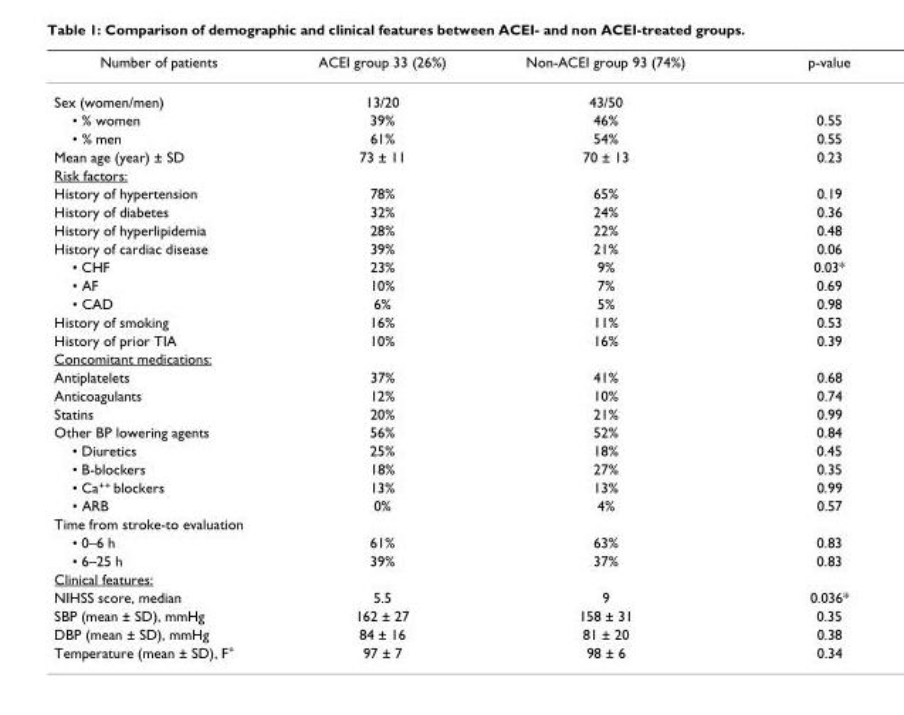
<table><thead><tr><td>Number of patients</td><td>ACEI group 33 (26%)</td><td>Non-ACEI group 93 (74%)</td><td>p-value</td></tr></thead><tbody><tr><td>Sex (women/men)</td><td>13/20</td><td>43/50</td><td></td></tr><tr><td>• % women</td><td>39%</td><td>46%</td><td>0.55</td></tr><tr><td>• % men</td><td>61%</td><td>54%</td><td>0.55</td></tr><tr><td>Mean age (year) ± SD</td><td>73 ± 11</td><td>70 ± 13</td><td>0.23</td></tr><tr><td colspan="4">Risk factors:</td></tr><tr><td>History of hypertension</td><td>78%</td><td>65%</td><td>0.19</td></tr><tr><td>History of diabetes</td><td>32%</td><td>24%</td><td>0.36</td></tr><tr><td>History of hyperlipidemia</td><td>28%</td><td>22%</td><td>0.48</td></tr><tr><td>History of cardiac disease</td><td>39%</td><td>21%</td><td>0.06</td></tr><tr><td>• CHF</td><td>23%</td><td>9%</td><td>0.03*</td></tr><tr><td>• AF</td><td>10%</td><td>7%</td><td>0.69</td></tr><tr><td>• CAD</td><td>6%</td><td>5%</td><td>0.98</td></tr><tr><td>History of smoking</td><td>16%</td><td>11%</td><td>0.53</td></tr><tr><td>History of prior TIA</td><td>10%</td><td>16%</td><td>0.39</td></tr><tr><td colspan="4">Concomitant medications:</td></tr><tr><td>Antiplatelets</td><td>37%</td><td>41%</td><td>0.68</td></tr><tr><td>Anticoagulants</td><td>12%</td><td>10%</td><td>0.74</td></tr><tr><td>Statins</td><td>20%</td><td>21%</td><td>0.99</td></tr><tr><td>Other BP lowering agents</td><td>56%</td><td>52%</td><td>0.84</td></tr><tr><td>• Diuretics</td><td>25%</td><td>18%</td><td>0.45</td></tr><tr><td>• B-blockers</td><td>18%</td><td>27%</td><td>0.35</td></tr><tr><td>• Ca<sup>++</sup> blockers</td><td>13%</td><td>13%</td><td>0.99</td></tr><tr><td>• ARB</td><td>0%</td><td>4%</td><td>0.57</td></tr><tr><td colspan="4">Time from stroke-to evaluation</td></tr><tr><td>• 0–6 h</td><td>61%</td><td>63%</td><td>0.83</td></tr><tr><td>• 6–25 h</td><td>39%</td><td>37%</td><td>0.83</td></tr><tr><td colspan="4">Clinical features:</td></tr><tr><td>NIHSS score, median</td><td>5.5</td><td>9</td><td>0.036*</td></tr><tr><td>SBP (mean ± SD), mmHg</td><td>162 ± 27</td><td>158 ± 31</td><td>0.35</td></tr><tr><td>DBP (mean ± SD), mmHg</td><td>84 ± 16</td><td>81 ± 20</td><td>0.38</td></tr><tr><td>Temperature (mean ± SD), F°</td><td>97 ± 7</td><td>98 ± 6</td><td>0.34</td></tr></tbody></table>